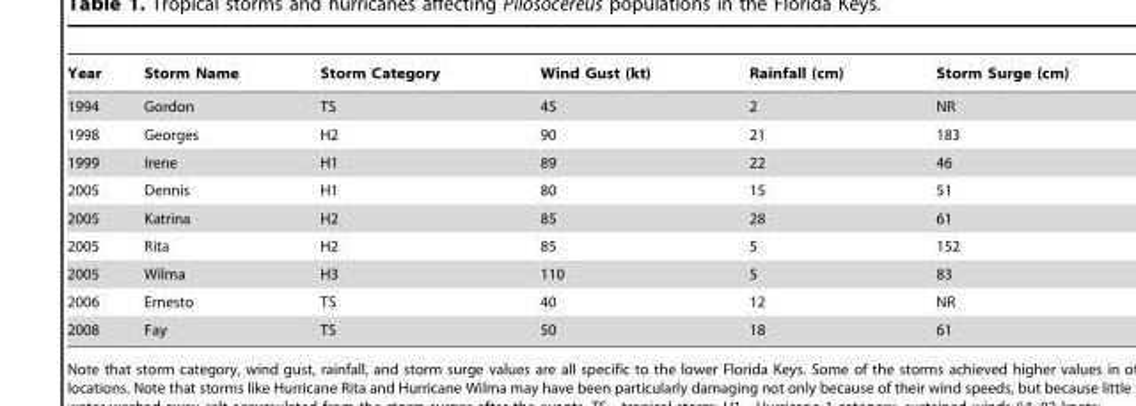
<table><thead><tr><td>Year</td><td>Storm Name</td><td>Storm Category</td><td>Wind Gust (kt)</td><td>Rainfall (cm)</td><td>Storm Surge (cm)</td></tr></thead><tbody><tr><td>1994</td><td>Gordon</td><td>TS</td><td>45</td><td>2</td><td>NR</td></tr><tr><td>1998</td><td>Georges</td><td>H2</td><td>90</td><td>21</td><td>183</td></tr><tr><td>1999</td><td>Irene</td><td>H1</td><td>89</td><td>22</td><td>46</td></tr><tr><td>2005</td><td>Dennis</td><td>H1</td><td>80</td><td>15</td><td>51</td></tr><tr><td>2005</td><td>Katrina</td><td>H2</td><td>85</td><td>28</td><td>61</td></tr><tr><td>2005</td><td>Rita</td><td>H2</td><td>85</td><td>5</td><td>152</td></tr><tr><td>2005</td><td>Wilma</td><td>H3</td><td>110</td><td>5</td><td>83</td></tr><tr><td>2006</td><td>Ernesto</td><td>TS</td><td>40</td><td>12</td><td>NR</td></tr><tr><td>2008</td><td>Fay</td><td>TS</td><td>50</td><td>18</td><td>61</td></tr></tbody></table>